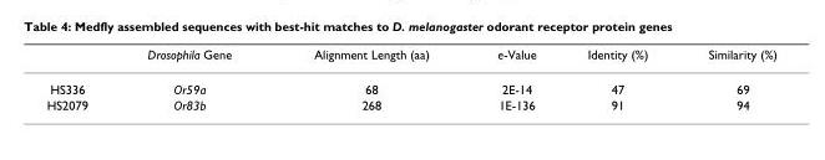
<table><thead><tr><td></td><td>Drosophila Gene</td><td>Alignment Length (aa)</td><td>e-Value</td><td>Identity (%)</td><td>Similarity (%)</td></tr></thead><tbody><tr><td>HS336</td><td>Or59a</td><td>68</td><td>2E-14</td><td>47</td><td>69</td></tr><tr><td>HS2079</td><td>Or83b</td><td>268</td><td>1E-136</td><td>91</td><td>94</td></tr></tbody></table>